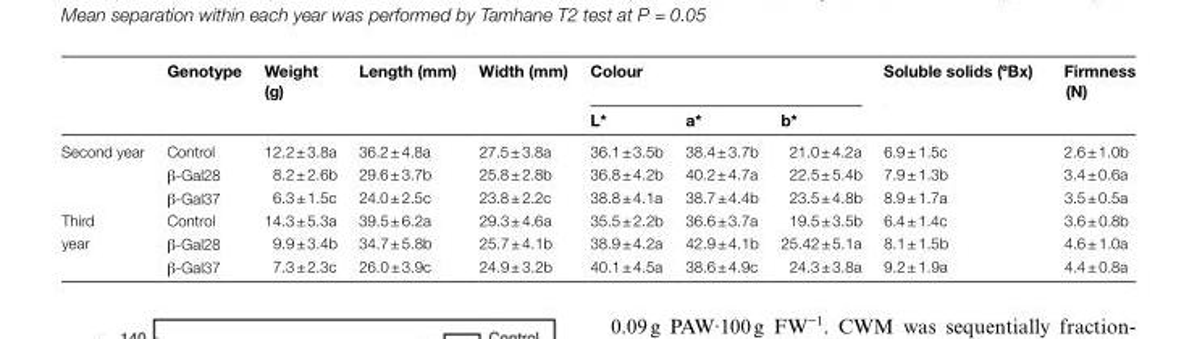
<table><thead><tr><td rowspan="2"></td><td rowspan="2">Genotype</td><td rowspan="2">Weight (g)</td><td rowspan="2">Length (mm)</td><td rowspan="2">Width (mm)</td><td colspan="3">Colour</td><td rowspan="2">Soluble solids (ºBx)</td><td rowspan="2">Firmness (N)</td></tr><tr><td>L*</td><td>a*</td><td>b*</td></tr></thead><tbody><tr><td rowspan="3">Second year</td><td>Control</td><td>12.2 ± 3.8a</td><td>36.2 ± 4.8a</td><td>27.5 ± 3.8a</td><td>36.1 ± 3.5b</td><td>38.4 ± 3.7b</td><td>21.0 ± 4.2a</td><td>6.9 ± 1.5c</td><td>2.6 ± 1.0b</td></tr><tr><td>β-Gal28</td><td>8.2 ± 2.6b</td><td>29.6 ± 3.7b</td><td>25.8 ± 2.8b</td><td>36.8 ± 4.2b</td><td>40.2 ± 4.7a</td><td>22.5 ± 5.4b</td><td>7.9 ± 1.3b</td><td>3.4 ± 0.6a</td></tr><tr><td>β-Gal37</td><td>6.3 ± 1.5c</td><td>24.0 ± 2.5c</td><td>23.8 ± 2.2c</td><td>38.8 ± 4.1a</td><td>38.7 ± 4.4b</td><td>23.5 ± 4.8b</td><td>8.9 ± 1.7a</td><td>3.5 ± 0.5a</td></tr><tr><td rowspan="3">Third year</td><td>Control</td><td>14.3 ± 5.3a</td><td>39.5 ± 6.2a</td><td>29.3 ± 4.6a</td><td>35.5 ± 2.2b</td><td>36.6 ± 3.7a</td><td>19.5 ± 3.5b</td><td>6.4 ± 1.4c</td><td>3.6 ± 0.8b</td></tr><tr><td>β-Gal28</td><td>9.9 ± 3.4b</td><td>34.7 ± 5.8b</td><td>25.7 ± 4.1b</td><td>38.9 ± 4.2a</td><td>42.9 ± 4.1b</td><td>25.42 ± 5.1a</td><td>8.1 ± 1.5b</td><td>4.6 ± 1.0a</td></tr><tr><td>β-Gal37</td><td>7.3 ± 2.3c</td><td>26.0 ± 3.9c</td><td>24.9 ± 3.2b</td><td>40.1 ± 4.5a</td><td>38.6 ± 4.9c</td><td>24.3 ± 3.8a</td><td>9.2 ± 1.9a</td><td>4.4 ± 0.8a</td></tr></tbody></table>